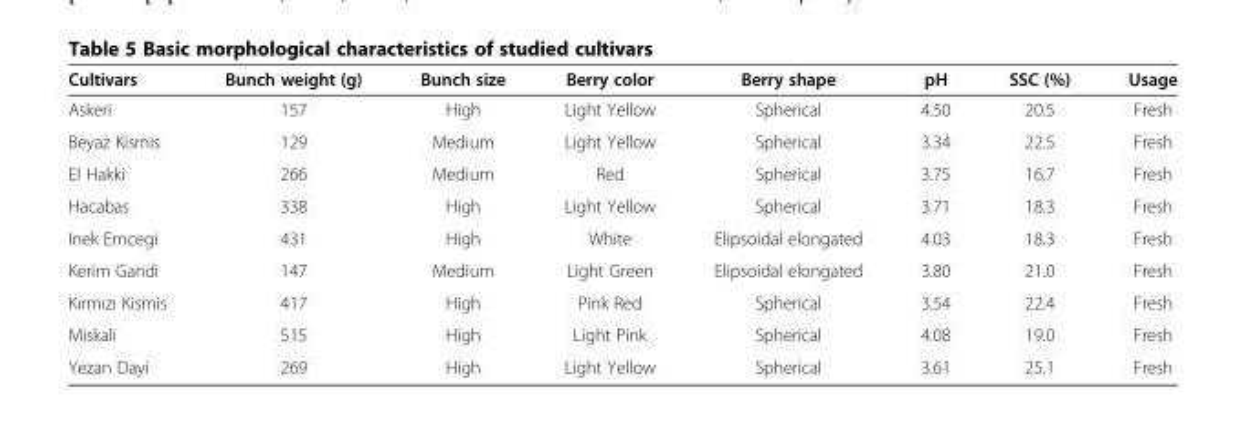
<table><thead><tr><td>Cultivars</td><td>Bunch weight (g)</td><td>Bunch size</td><td>Berry color</td><td>Berry shape</td><td>pH</td><td>SSC (%)</td><td>Usage</td></tr></thead><tbody><tr><td>Askeri</td><td>157</td><td>High</td><td>Light Yellow</td><td>Spherical</td><td>4.50</td><td>20.5</td><td>Fresh</td></tr><tr><td>Beyaz Kismis</td><td>129</td><td>Medium</td><td>Light Yellow</td><td>Spherical</td><td>3.34</td><td>22.5</td><td>Fresh</td></tr><tr><td>El Hakki</td><td>266</td><td>Medium</td><td>Red</td><td>Spherical</td><td>3.75</td><td>16.7</td><td>Fresh</td></tr><tr><td>Hacabas</td><td>338</td><td>High</td><td>Light Yellow</td><td>Spherical</td><td>3.71</td><td>18.3</td><td>Fresh</td></tr><tr><td>Inek Emcegi</td><td>431</td><td>High</td><td>White</td><td>Elipsoidal elongated</td><td>4.03</td><td>18.3</td><td>Fresh</td></tr><tr><td>Kerim Gandi</td><td>147</td><td>Medium</td><td>Light Green</td><td>Elipsoidal elongated</td><td>3.80</td><td>21.0</td><td>Fresh</td></tr><tr><td>Kırmızı Kismis</td><td>417</td><td>High</td><td>Pink Red</td><td>Spherical</td><td>3.54</td><td>22.4</td><td>Fresh</td></tr><tr><td>Miskali</td><td>515</td><td>High</td><td>Light Pink</td><td>Spherical</td><td>4.08</td><td>19.0</td><td>Fresh</td></tr><tr><td>Yezan Dayi</td><td>269</td><td>High</td><td>Light Yellow</td><td>Spherical</td><td>3.61</td><td>25.1</td><td>Fresh</td></tr></tbody></table>